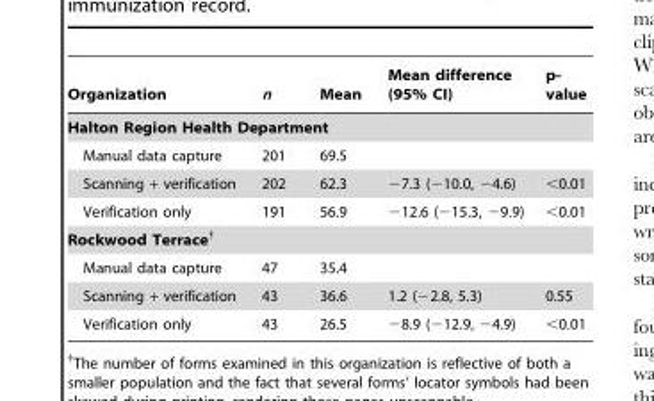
<table><thead><tr><td>Organization</td><td>n</td><td>Mean</td><td>Mean difference (95% CI)</td><td>p- value</td></tr></thead><tbody><tr><td colspan="5">Halton Region Health Department</td></tr><tr><td>Manual data capture</td><td>201</td><td>69.5</td><td></td><td></td></tr><tr><td>Scanning + verification</td><td>202</td><td>62.3</td><td>−7.3 (−10.0, −4.6)</td><td>&lt;0.01</td></tr><tr><td>Verification only</td><td>191</td><td>56.9</td><td>−12.6 (−15.3, −9.9)</td><td>&lt;0.01</td></tr><tr><td colspan="5">Rockwood Terrace†</td></tr><tr><td>Manual data capture</td><td>47</td><td>35.4</td><td></td><td></td></tr><tr><td>Scanning + verification</td><td>43</td><td>36.6</td><td>1.2 (−2.8, 5.3)</td><td>0.55</td></tr><tr><td>Verification only</td><td>43</td><td>26.5</td><td>−8.9 (−12.9, −4.9)</td><td>&lt;0.01</td></tr></tbody></table>